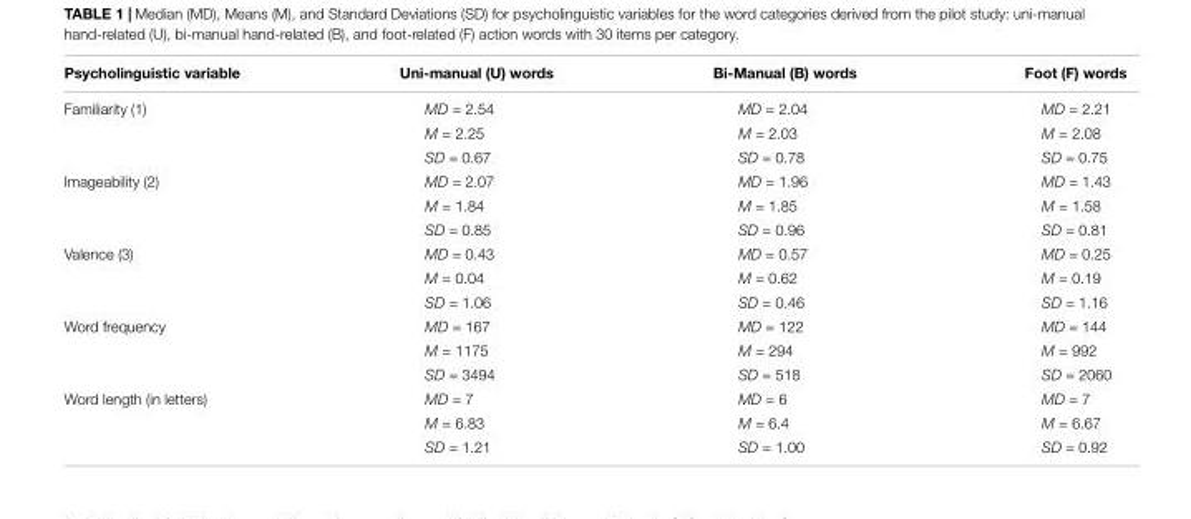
<table><thead><tr><td>Psycholinguistic variable</td><td>Uni-manual (U) words</td><td>Bi-Manual (B) words</td><td>Foot (F) words</td></tr></thead><tbody><tr><td rowspan="3">Familiarity (1)</td><td>MD = 2.54</td><td>MD = 2.04</td><td>MD = 2.21</td></tr><tr><td>M = 2.25</td><td>M = 2.03</td><td>M = 2.08</td></tr><tr><td>SD = 0.67</td><td>SD = 0.78</td><td>SD = 0.75</td></tr><tr><td rowspan="3">Imageability (2)</td><td>MD = 2.07</td><td>MD = 1.96</td><td>MD = 1.43</td></tr><tr><td>M = 1.84</td><td>M = 1.85</td><td>M = 1.58</td></tr><tr><td>SD = 0.85</td><td>SD = 0.96</td><td>SD = 0.81</td></tr><tr><td rowspan="3">Valence (3)</td><td>MD = 0.43</td><td>MD = 0.57</td><td>MD = 0.25</td></tr><tr><td>M = 0.04</td><td>M = 0.62</td><td>M = 0.19</td></tr><tr><td>SD = 1.06</td><td>SD = 0.46</td><td>SD = 1.16</td></tr><tr><td rowspan="3">Word frequency</td><td>MD = 167</td><td>MD = 122</td><td>MD = 144</td></tr><tr><td>M = 1175</td><td>M = 294</td><td>M = 992</td></tr><tr><td>SD = 3494</td><td>SD = 518</td><td>SD = 2060</td></tr><tr><td rowspan="3">Word length (in letters)</td><td>MD = 7</td><td>MD = 6</td><td>MD = 7</td></tr><tr><td>M = 6.83</td><td>M = 6.4</td><td>M = 6.67</td></tr><tr><td>SD = 1.21</td><td>SD = 1.00</td><td>SD = 0.92</td></tr></tbody></table>